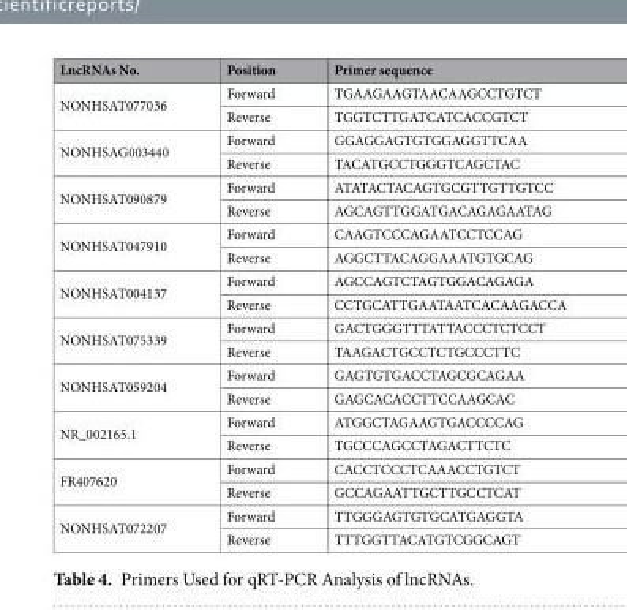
<table><thead><tr><td>LncRNAs No.</td><td>Position</td><td>Primer sequence</td></tr></thead><tbody><tr><td rowspan="2">NONHSAT077036</td><td>Forward</td><td>TGAAGAAGTAACAAGCCTGTCT</td></tr><tr><td>Reverse</td><td>TGGTCTTGATCATCACCGTCT</td></tr><tr><td rowspan="2">NONHSAG003440</td><td>Forward</td><td>GGAGGAGTGTGGAGGTTCAA</td></tr><tr><td>Reverse</td><td>TACATGCCTGGGTCAGCTAC</td></tr><tr><td rowspan="2">NONHSAT090879</td><td>Forward</td><td>ATATACTACAGTGCGTTGTTGTCC</td></tr><tr><td>Reverse</td><td>AGCAGTTGGATGACAGAGAATAG</td></tr><tr><td rowspan="2">NONHSAT047910</td><td>Forward</td><td>CAAGTCCCAGAATCCTCCAG</td></tr><tr><td>Reverse</td><td>AGGCTTACAGGAAATGTGCAG</td></tr><tr><td rowspan="2">NONHSAT004137</td><td>Forward</td><td>AGCCAGTCTAGTGGACAGAGA</td></tr><tr><td>Reverse</td><td>CCTGCATTGAATAATCACAAGACCA</td></tr><tr><td rowspan="2">NONHSAT075339</td><td>Forward</td><td>GACTGGGTTTATTACCCTCTCCT</td></tr><tr><td>Reverse</td><td>TAAGACTGCCTCTGCCCTTC</td></tr><tr><td rowspan="2">NONHSAT059204</td><td>Forward</td><td>GAGTGTGACCTAGCGCAGAA</td></tr><tr><td>Reverse</td><td>GAGCACACCTTCCAAGCAC</td></tr><tr><td rowspan="2">NR_002165.1</td><td>Forward</td><td>ATGGCTAGAAGTGACCCCAG</td></tr><tr><td>Reverse</td><td>TGCCCAGCCTAGACTTCTC</td></tr><tr><td rowspan="2">FR407620</td><td>Forward</td><td>CACCTCCCTCAAACCTGTCT</td></tr><tr><td>Reverse</td><td>GCCAGAATTGCTTGCCTCAT</td></tr><tr><td rowspan="2">NONHSAT072207</td><td>Forward</td><td>TTGGGAGTGTGCATGAGGTA</td></tr><tr><td>Reverse</td><td>TTTGGTTACATGTCGGCAGT</td></tr></tbody></table>